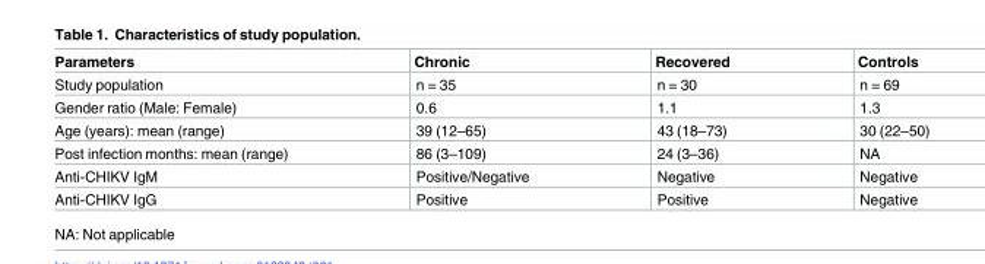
<table><thead><tr><td>Parameters</td><td>Chronic</td><td>Recovered</td><td>Controls</td></tr></thead><tbody><tr><td>Study population</td><td>n = 35</td><td>n = 30</td><td>n = 69</td></tr><tr><td>Gender ratio (Male: Female)</td><td>0.6</td><td>1.1</td><td>1.3</td></tr><tr><td>Age (years): mean (range)</td><td>39 (12–65)</td><td>43 (18–73)</td><td>30 (22–50)</td></tr><tr><td>Post infection months: mean (range)</td><td>86 (3–109)</td><td>24 (3–36)</td><td>NA</td></tr><tr><td>Anti-CHIKV IgM</td><td>Positive/Negative</td><td>Negative</td><td>Negative</td></tr><tr><td>Anti-CHIKV IgG</td><td>Positive</td><td>Positive</td><td>Negative</td></tr></tbody></table>